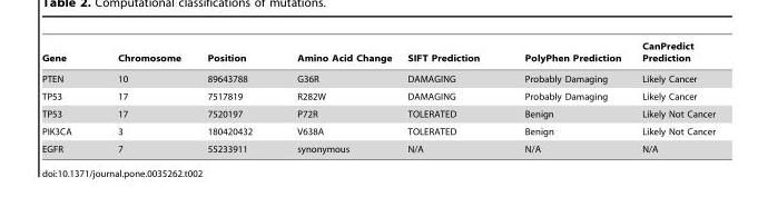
<table><thead><tr><td>Gene</td><td>Chromosome</td><td>Position</td><td>Amino Acid Change</td><td>SIFT Prediction</td><td>PolyPhen Prediction</td><td>CanPredict Prediction</td></tr></thead><tbody><tr><td>PTEN</td><td>10</td><td>89643788</td><td>G36R</td><td>DAMAGING</td><td>Probably Damaging</td><td>Likely Cancer</td></tr><tr><td>TP53</td><td>17</td><td>7517819</td><td>R282W</td><td>DAMAGING</td><td>Probably Damaging</td><td>Likely Cancer</td></tr><tr><td>TP53</td><td>17</td><td>7520197</td><td>P72R</td><td>TOLERATED</td><td>Benign</td><td>Likely Not Cancer</td></tr><tr><td>PIK3CA</td><td>3</td><td>180420432</td><td>V638A</td><td>TOLERATED</td><td>Benign</td><td>Likely Not Cancer</td></tr><tr><td>EGFR</td><td>7</td><td>55233911</td><td>synonymous</td><td>N/A</td><td>N/A</td><td>N/A</td></tr></tbody></table>